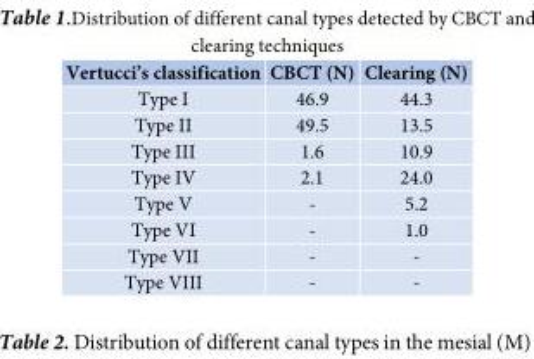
<table><thead><tr><td>Vertucci’s classification</td><td>CBCT (N)</td><td>Clearing (N)</td></tr></thead><tbody><tr><td>Type I</td><td>46.9</td><td>44.3</td></tr><tr><td>Type II</td><td>49.5</td><td>13.5</td></tr><tr><td>Type III</td><td>1.6</td><td>10.9</td></tr><tr><td>Type IV</td><td>2.1</td><td>24.0</td></tr><tr><td>Type V</td><td>-</td><td>5.2</td></tr><tr><td>Type VI</td><td>-</td><td>1.0</td></tr><tr><td>Type VII</td><td>-</td><td>-</td></tr><tr><td>Type VIII</td><td>-</td><td>-</td></tr></tbody></table>